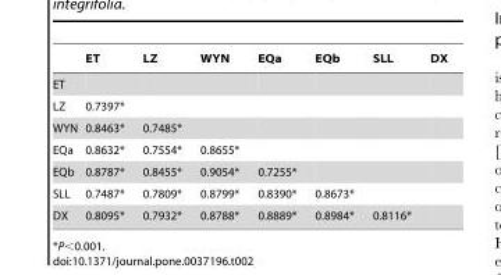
<table><thead><tr><td></td><td>ET</td><td>LZ</td><td>WYN</td><td>EQa</td><td>EQb</td><td>SLL</td><td>DX</td></tr></thead><tbody><tr><td colspan="8">ET</td></tr><tr><td>LZ</td><td>0.7397*</td><td></td><td></td><td></td><td></td><td></td><td></td></tr><tr><td>WYN</td><td>0.8463*</td><td>0.7485*</td><td></td><td></td><td></td><td></td><td></td></tr><tr><td>EQa</td><td>0.8632*</td><td>0.7554*</td><td>0.8655*</td><td></td><td></td><td></td><td></td></tr><tr><td>EQb</td><td>0.8787*</td><td>0.8455*</td><td>0.9054*</td><td>0.7255*</td><td></td><td></td><td></td></tr><tr><td>SLL</td><td>0.7487*</td><td>0.7809*</td><td>0.8799*</td><td>0.8390*</td><td>0.8673*</td><td></td><td></td></tr><tr><td>DX</td><td>0.8095*</td><td>0.7932*</td><td>0.8788*</td><td>0.8889*</td><td>0.8984*</td><td>0.8116*</td><td></td></tr></tbody></table>